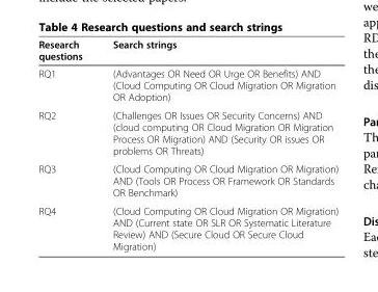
<table><thead><tr><td>Research questions</td><td>Search strings</td></tr></thead><tbody><tr><td>RQ1</td><td>(Advantages OR Need OR Urge OR Benefits) AND (Cloud Computing OR Cloud Migration OR Migration OR Adoption)</td></tr><tr><td>RQ2</td><td>(Challenges OR Issues OR Security Concerns) AND (cloud computing OR Cloud Migration OR Migration Process OR Migration) AND (Security OR issues OR problems OR Threats)</td></tr><tr><td>RQ3</td><td>(Cloud Computing OR Cloud Migration OR Migration) AND (Tools OR Process OR Framework OR Standards OR Benchmark)</td></tr><tr><td>RQ4</td><td>(Cloud Computing OR Cloud Migration OR Migration) AND (Current state OR SLR OR Systematic Literature Review) AND (Secure Cloud OR Secure Cloud Migration)</td></tr></tbody></table>